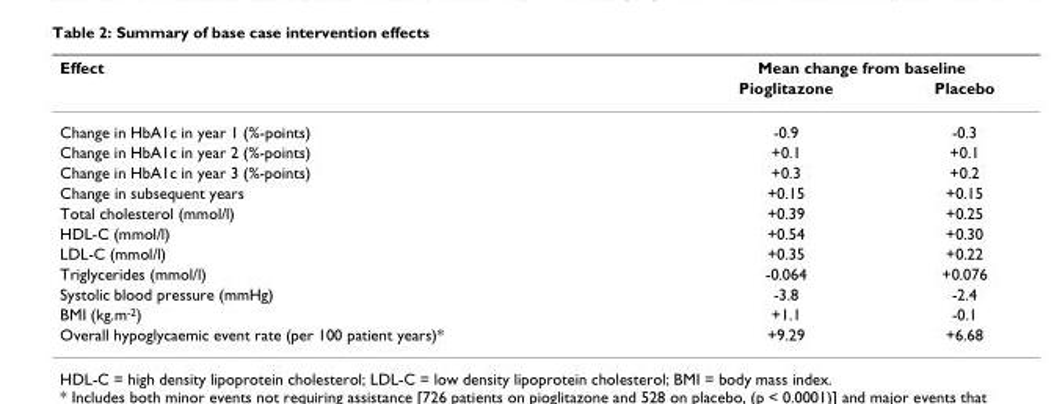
<table><thead><tr><td rowspan="2">Effect</td><td colspan="2">Mean change from baseline</td></tr><tr><td>Pioglitazone</td><td>Placebo</td></tr></thead><tbody><tr><td>Change in HbA1c in year 1 (%-points)</td><td>-0.9</td><td>-0.3</td></tr><tr><td>Change in HbA1c in year 2 (%-points)</td><td>+0.1</td><td>+0.1</td></tr><tr><td>Change in HbA1c in year 3 (%-points)</td><td>+0.3</td><td>+0.2</td></tr><tr><td>Change in subsequent years</td><td>+0.15</td><td>+0.15</td></tr><tr><td>Total cholesterol (mmol/l)</td><td>+0.39</td><td>+0.25</td></tr><tr><td>HDL-C (mmol/l)</td><td>+0.54</td><td>+0.30</td></tr><tr><td>LDL-C (mmol/l)</td><td>+0.35</td><td>+0.22</td></tr><tr><td>Triglycerides (mmol/l)</td><td>-0.064</td><td>+0.076</td></tr><tr><td>Systolic blood pressure (mmHg)</td><td>-3.8</td><td>-2.4</td></tr><tr><td>BMI (kg.m<sup>-2</sup>)</td><td>+1.1</td><td>-0.1</td></tr><tr><td>Overall hypoglycaemic event rate (per 100 patient years)*</td><td>+9.29</td><td>+6.68</td></tr></tbody></table>